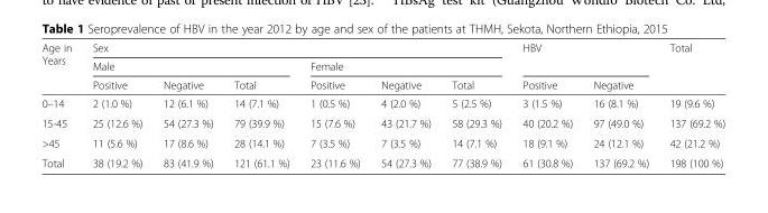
<table><thead><tr><td rowspan="3">Age in Years</td><td colspan="6">Sex</td><td rowspan="2" colspan="2">HBV</td><td rowspan="3">Total</td></tr><tr><td colspan="3">Male</td><td colspan="3">Female</td></tr><tr><td>Positive</td><td>Negative</td><td>Total</td><td>Positive</td><td>Negative</td><td>Total</td><td>Positive</td><td>Negative</td></tr></thead><tbody><tr><td>0–14</td><td>2 (1.0 %)</td><td>12 (6.1 %)</td><td>14 (7.1 %)</td><td>1 (0.5 %)</td><td>4 (2.0 %)</td><td>5 (2.5 %)</td><td>3 (1.5 %)</td><td>16 (8.1 %)</td><td>19 (9.6 %)</td></tr><tr><td>15-45</td><td>25 (12.6 %)</td><td>54 (27.3 %)</td><td>79 (39.9 %)</td><td>15 (7.6 %)</td><td>43 (21.7 %)</td><td>58 (29.3 %)</td><td>40 (20.2 %)</td><td>97 (49.0 %)</td><td>137 (69.2 %)</td></tr><tr><td>&gt;45</td><td>11 (5.6 %)</td><td>17 (8.6 %)</td><td>28 (14.1 %)</td><td>7 (3.5 %)</td><td>7 (3.5 %)</td><td>14 (7.1 %)</td><td>18 (9.1 %)</td><td>24 (12.1 %)</td><td>42 (21.2 %)</td></tr><tr><td>Total</td><td>38 (19.2 %)</td><td>83 (41.9 %)</td><td>121 (61.1 %)</td><td>23 (11.6 %)</td><td>54 (27.3 %)</td><td>77 (38.9 %)</td><td>61 (30.8 %)</td><td>137 (69.2 %)</td><td>198 (100 %)</td></tr></tbody></table>